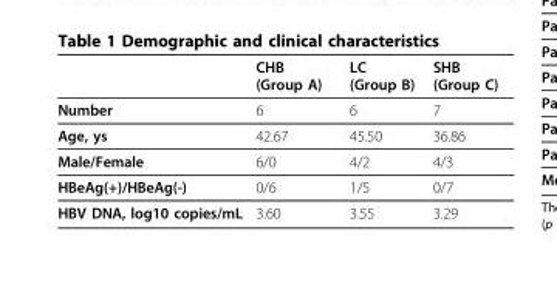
<table><thead><tr><td></td><td>CHB (Group A)</td><td>LC (Group B)</td><td>SHB (Group C)</td></tr></thead><tbody><tr><td>Number</td><td>6</td><td>6</td><td>7</td></tr><tr><td>Age, ys</td><td>42.67</td><td>45.50</td><td>36.86</td></tr><tr><td>Male/Female</td><td>6/0</td><td>4/2</td><td>4/3</td></tr><tr><td>HBeAg(+)/HBeAg(-)</td><td>0/6</td><td>1/5</td><td>0/7</td></tr><tr><td>HBV DNA, log10 copies/mL</td><td>3.60</td><td>3.55</td><td>3.29</td></tr></tbody></table>